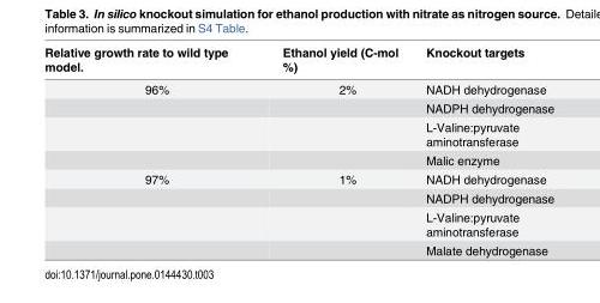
<table><thead><tr><td>Relative growth rate to wild type model.</td><td>Ethanol yield (C-mol %)</td><td>Knockout targets</td></tr></thead><tbody><tr><td rowspan="4">96%</td><td>2%</td><td>NADH dehydrogenase</td></tr><tr><td></td><td>NADPH dehydrogenase</td></tr><tr><td></td><td>L-Valine:pyruvate aminotransferase</td></tr><tr><td></td><td>Malic enzyme</td></tr><tr><td rowspan="4">97%</td><td>1%</td><td>NADH dehydrogenase</td></tr><tr><td></td><td>NADPH dehydrogenase</td></tr><tr><td></td><td>L-Valine:pyruvate aminotransferase</td></tr><tr><td></td><td>Malate dehydrogenase</td></tr></tbody></table>